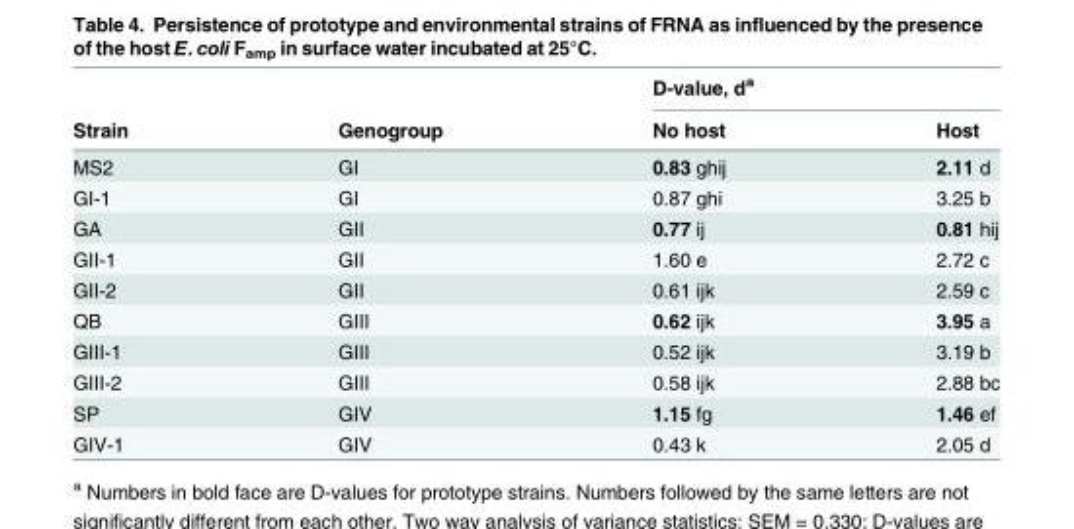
<table><thead><tr><td rowspan="2">Strain</td><td rowspan="2">Genogroup</td><td colspan="2">D-value, d<sup>a</sup></td></tr><tr><td>No host</td><td>Host</td></tr></thead><tbody><tr><td>MS2</td><td>GI</td><td>0.83 ghij</td><td>2.11 d</td></tr><tr><td>GI-1</td><td>GI</td><td>0.87 ghi</td><td>3.25 b</td></tr><tr><td>GA</td><td>GII</td><td>0.77 ij</td><td>0.81 hij</td></tr><tr><td>GII-1</td><td>GII</td><td>1.60 e</td><td>2.72 c</td></tr><tr><td>GII-2</td><td>GII</td><td>0.61 ijk</td><td>2.59 c</td></tr><tr><td>QB</td><td>GIII</td><td>0.62 ijk</td><td>3.95 a</td></tr><tr><td>GIII-1</td><td>GIII</td><td>0.52 ijk</td><td>3.19 b</td></tr><tr><td>GIII-2</td><td>GIII</td><td>0.58 ijk</td><td>2.88 bc</td></tr><tr><td>SP</td><td>GIV</td><td>1.15 fg</td><td>1.46 ef</td></tr><tr><td>GIV-1</td><td>GIV</td><td>0.43 k</td><td>2.05 d</td></tr></tbody></table>